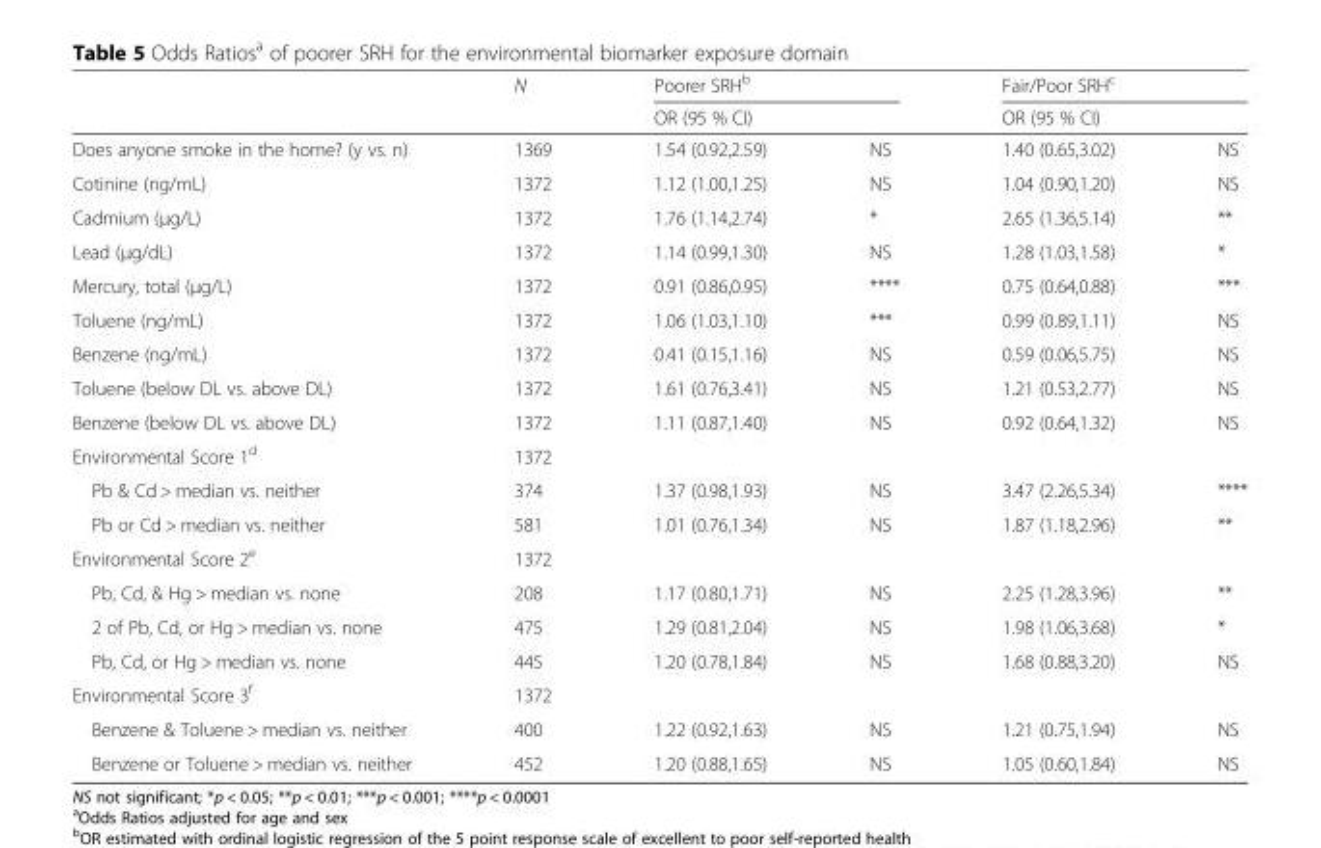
<table><thead><tr><td rowspan="3">Does anyone smoke in the home? (y vs. n)</td><td rowspan="3">N 1369</td><td rowspan="2" colspan="2">Poorer SRH<sup>b</sup> OR (95 % CI)</td><td rowspan="2" colspan="2">Fair/Poor SRH<sup>c</sup> OR (95 % CI)</td></tr><tr></tr><tr><td>1.54 (0.92,2.59)</td><td>NS</td><td>1.40 (0.65,3.02)</td><td>NS</td></tr></thead><tbody><tr><td>Cotinine (ng/mL)</td><td>1372</td><td>1.12 (1.00,1.25)</td><td>NS</td><td>1.04 (0.90,1.20)</td><td>NS</td></tr><tr><td>Cadmium (μg/L)</td><td>1372</td><td>1.76 (1.14,2.74)</td><td>*</td><td>2.65 (1.36,5.14)</td><td>**</td></tr><tr><td>Lead (μg/dL)</td><td>1372</td><td>1.14 (0.99,1.30)</td><td>NS</td><td>1.28 (1.03,1.58)</td><td>*</td></tr><tr><td>Mercury, total (μg/L)</td><td>1372</td><td>0.91 (0.86,0.95)</td><td>****</td><td>0.75 (0.64,0.88)</td><td>***</td></tr><tr><td>Toluene (ng/mL)</td><td>1372</td><td>1.06 (1.03,1.10)</td><td>***</td><td>0.99 (0.89,1.11)</td><td>NS</td></tr><tr><td>Benzene (ng/mL)</td><td>1372</td><td>0.41 (0.15,1.16)</td><td>NS</td><td>0.59 (0.06,5.75)</td><td>NS</td></tr><tr><td>Toluene (below DL vs. above DL)</td><td>1372</td><td>1.61 (0.76,3.41)</td><td>NS</td><td>1.21 (0.53,2.77)</td><td>NS</td></tr><tr><td>Benzene (below DL vs. above DL)</td><td>1372</td><td>1.11 (0.87,1.40)</td><td>NS</td><td>0.92 (0.64,1.32)</td><td>NS</td></tr><tr><td>Environmental Score 1<sup>d</sup></td><td>1372</td><td></td><td></td><td></td><td></td></tr><tr><td>Pb &amp; Cd &gt; median vs. neither</td><td>374</td><td>1.37 (0.98,1.93)</td><td>NS</td><td>3.47 (2.26,5.34)</td><td>****</td></tr><tr><td>Pb or Cd &gt; median vs. neither</td><td>581</td><td>1.01 (0.76,1.34)</td><td>NS</td><td>1.87 (1.18,2.96)</td><td>**</td></tr><tr><td>Environmental Score 2<sup>e</sup></td><td>1372</td><td></td><td></td><td></td><td></td></tr><tr><td>Pb, Cd, &amp; Hg &gt; median vs. none</td><td>208</td><td>1.17 (0.80,1.71)</td><td>NS</td><td>2.25 (1.28,3.96)</td><td>**</td></tr><tr><td>2 of Pb, Cd, or Hg &gt; median vs. none</td><td>475</td><td>1.29 (0.81,2.04)</td><td>NS</td><td>1.98 (1.06,3.68)</td><td>*</td></tr><tr><td>Pb, Cd, or Hg &gt; median vs. none</td><td>445</td><td>1.20 (0.78,1.84)</td><td>NS</td><td>1.68 (0.88,3.20)</td><td>NS</td></tr><tr><td>Environmental Score 3<sup>f</sup></td><td>1372</td><td></td><td></td><td></td><td></td></tr><tr><td>Benzene &amp; Toluene &gt; median vs. neither</td><td>400</td><td>1.22 (0.92,1.63)</td><td>NS</td><td>1.21 (0.75,1.94)</td><td>NS</td></tr><tr><td>Benzene or Toluene &gt; median vs. neither</td><td>452</td><td>1.20 (0.88,1.65)</td><td>NS</td><td>1.05 (0.60,1.84)</td><td>NS</td></tr></tbody></table>